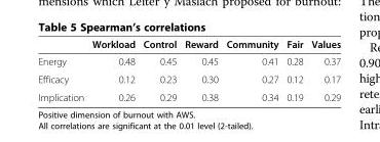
<table><thead><tr><td></td><td>Workload</td><td>Control</td><td>Reward</td><td>Community</td><td>Fair</td><td>Values</td></tr></thead><tbody><tr><td>Energy</td><td>0.48</td><td>0.45</td><td>0.45</td><td>0.41</td><td>0.28</td><td>0.37</td></tr><tr><td>Efficacy</td><td>0.12</td><td>0.23</td><td>0.30</td><td>0.27</td><td>0.12</td><td>0.17</td></tr><tr><td>Implication</td><td>0.26</td><td>0.29</td><td>0.38</td><td>0.34</td><td>0.19</td><td>0.29</td></tr></tbody></table>